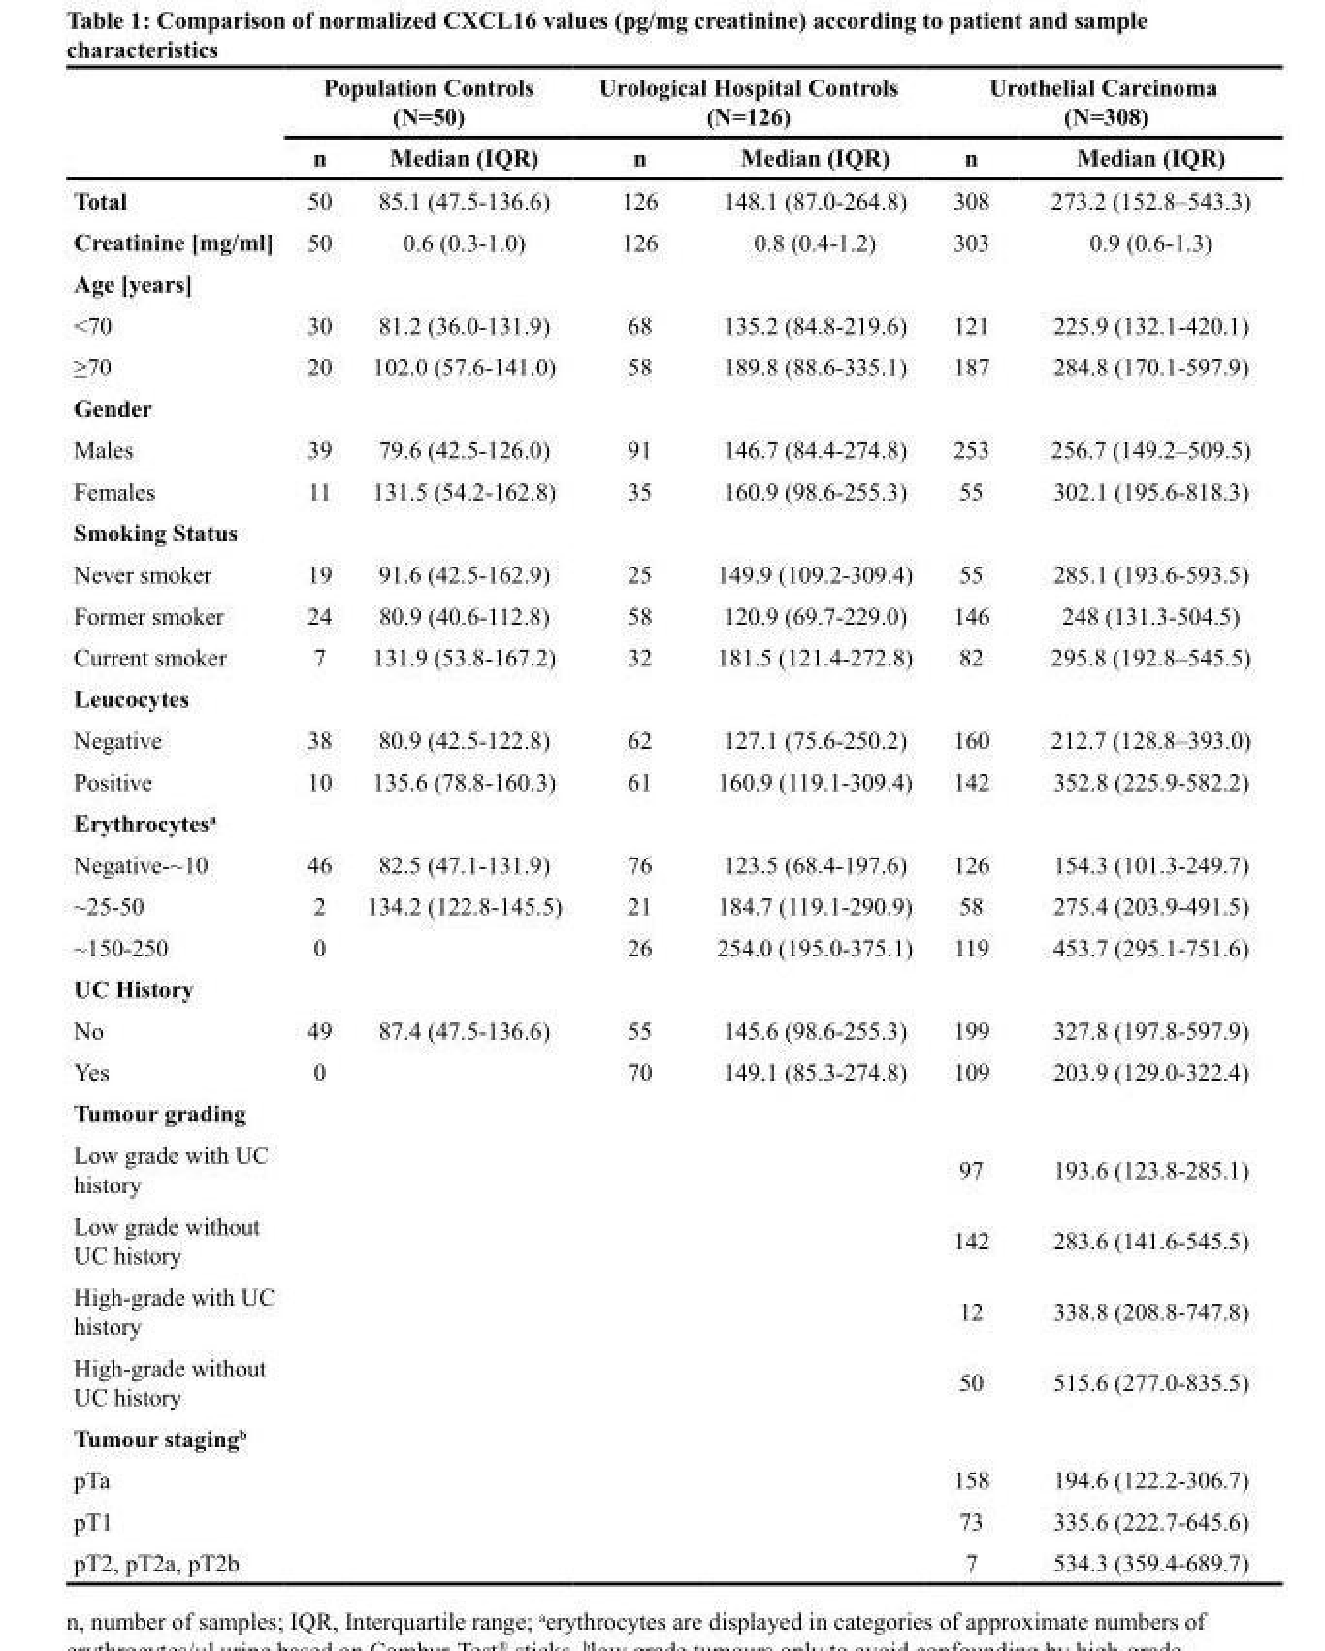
<table><thead><tr><td rowspan="2"></td><td colspan="2">Population Controls (N=50)</td><td colspan="2">Urological Hospital Controls (N=126)</td><td colspan="2">Urothelial Carcinoma (N=308)</td></tr><tr><td>n</td><td>Median (IQR)</td><td>n</td><td>Median (IQR)</td><td>n</td><td>Median (IQR)</td></tr></thead><tbody><tr><td>Total</td><td>50</td><td>85.1 (47.5-136.6)</td><td>126</td><td>148.1 (87.0-264.8)</td><td>308</td><td>273.2 (152.8–543.3)</td></tr><tr><td>Creatinine [mg/ml]</td><td>50</td><td>0.6 (0.3-1.0)</td><td>126</td><td>0.8 (0.4-1.2)</td><td>303</td><td>0.9 (0.6-1.3)</td></tr><tr><td colspan="7">Age [years]</td></tr><tr><td>&lt;70</td><td>30</td><td>81.2 (36.0-131.9)</td><td>68</td><td>135.2 (84.8-219.6)</td><td>121</td><td>225.9 (132.1-420.1)</td></tr><tr><td>≥70</td><td>20</td><td>102.0 (57.6-141.0)</td><td>58</td><td>189.8 (88.6-335.1)</td><td>187</td><td>284.8 (170.1-597.9)</td></tr><tr><td colspan="7">Gender</td></tr><tr><td>Males</td><td>39</td><td>79.6 (42.5-126.0)</td><td>91</td><td>146.7 (84.4-274.8)</td><td>253</td><td>256.7 (149.2–509.5)</td></tr><tr><td>Females</td><td>11</td><td>131.5 (54.2-162.8)</td><td>35</td><td>160.9 (98.6-255.3)</td><td>55</td><td>302.1 (195.6-818.3)</td></tr><tr><td colspan="7">Smoking Status</td></tr><tr><td>Never smoker</td><td>19</td><td>91.6 (42.5-162.9)</td><td>25</td><td>149.9 (109.2-309.4)</td><td>55</td><td>285.1 (193.6-593.5)</td></tr><tr><td>Former smoker</td><td>24</td><td>80.9 (40.6-112.8)</td><td>58</td><td>120.9 (69.7-229.0)</td><td>146</td><td>248 (131.3-504.5)</td></tr><tr><td>Current smoker</td><td>7</td><td>131.9 (53.8-167.2)</td><td>32</td><td>181.5 (121.4-272.8)</td><td>82</td><td>295.8 (192.8–545.5)</td></tr><tr><td colspan="7">Leucocytes</td></tr><tr><td>Negative</td><td>38</td><td>80.9 (42.5-122.8)</td><td>62</td><td>127.1 (75.6-250.2)</td><td>160</td><td>212.7 (128.8–393.0)</td></tr><tr><td>Positive</td><td>10</td><td>135.6 (78.8-160.3)</td><td>61</td><td>160.9 (119.1-309.4)</td><td>142</td><td>352.8 (225.9-582.2)</td></tr><tr><td colspan="7">Erythrocytes<sup>a</sup></td></tr><tr><td>Negative-~10</td><td>46</td><td>82.5 (47.1-131.9)</td><td>76</td><td>123.5 (68.4-197.6)</td><td>126</td><td>154.3 (101.3-249.7)</td></tr><tr><td>~25-50</td><td>2</td><td>134.2 (122.8-145.5)</td><td>21</td><td>184.7 (119.1-290.9)</td><td>58</td><td>275.4 (203.9-491.5)</td></tr><tr><td>~150-250</td><td>0</td><td></td><td>26</td><td>254.0 (195.0-375.1)</td><td>119</td><td>453.7 (295.1-751.6)</td></tr><tr><td colspan="7">UC History</td></tr><tr><td>No</td><td>49</td><td>87.4 (47.5-136.6)</td><td>55</td><td>145.6 (98.6-255.3)</td><td>199</td><td>327.8 (197.8-597.9)</td></tr><tr><td>Yes</td><td>0</td><td></td><td>70</td><td>149.1 (85.3-274.8)</td><td>109</td><td>203.9 (129.0-322.4)</td></tr><tr><td colspan="7">Tumour grading</td></tr><tr><td>Low grade with UC history</td><td></td><td></td><td></td><td></td><td>97</td><td>193.6 (123.8-285.1)</td></tr><tr><td>Low grade without UC history</td><td></td><td></td><td></td><td></td><td>142</td><td>283.6 (141.6-545.5)</td></tr><tr><td>High-grade with UC history</td><td></td><td></td><td></td><td></td><td>12</td><td>338.8 (208.8-747.8)</td></tr><tr><td>High-grade without UC history</td><td></td><td></td><td></td><td></td><td>50</td><td>515.6 (277.0-835.5)</td></tr><tr><td colspan="7">Tumour staging<sup>b</sup></td></tr><tr><td>pTa</td><td></td><td></td><td></td><td></td><td>158</td><td>194.6 (122.2-306.7)</td></tr><tr><td>pT1</td><td></td><td></td><td></td><td></td><td>73</td><td>335.6 (222.7-645.6)</td></tr><tr><td>pT2, pT2a, pT2b</td><td></td><td></td><td></td><td></td><td>7</td><td>534.3 (359.4-689.7)</td></tr></tbody></table>